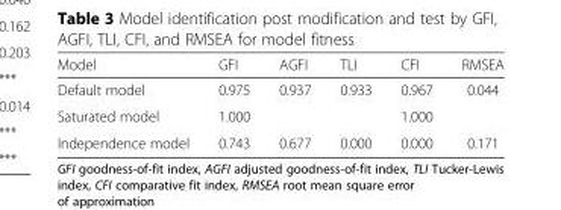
<table><thead><tr><td>Model</td><td>GFI</td><td>AGFI</td><td>TLI</td><td>CFI</td><td>RMSEA</td></tr></thead><tbody><tr><td>Default model</td><td>0.975</td><td>0.937</td><td>0.933</td><td>0.967</td><td>0.044</td></tr><tr><td>Saturated model</td><td>1.000</td><td></td><td></td><td>1.000</td><td></td></tr><tr><td>Independence model</td><td>0.743</td><td>0.677</td><td>0.000</td><td>0.000</td><td>0.171</td></tr></tbody></table>